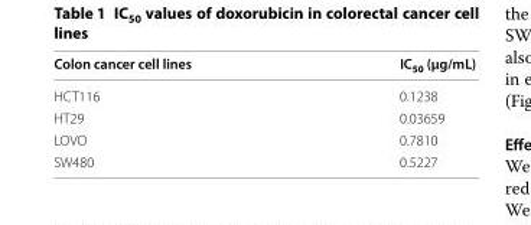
<table><thead><tr><td>Colon cancer cell lines</td><td>IC<sub>50</sub> (μg/mL)</td></tr></thead><tbody><tr><td>HCT116</td><td>0.1238</td></tr><tr><td>HT29</td><td>0.03659</td></tr><tr><td>LOVO</td><td>0.7810</td></tr><tr><td>SW480</td><td>0.5227</td></tr></tbody></table>